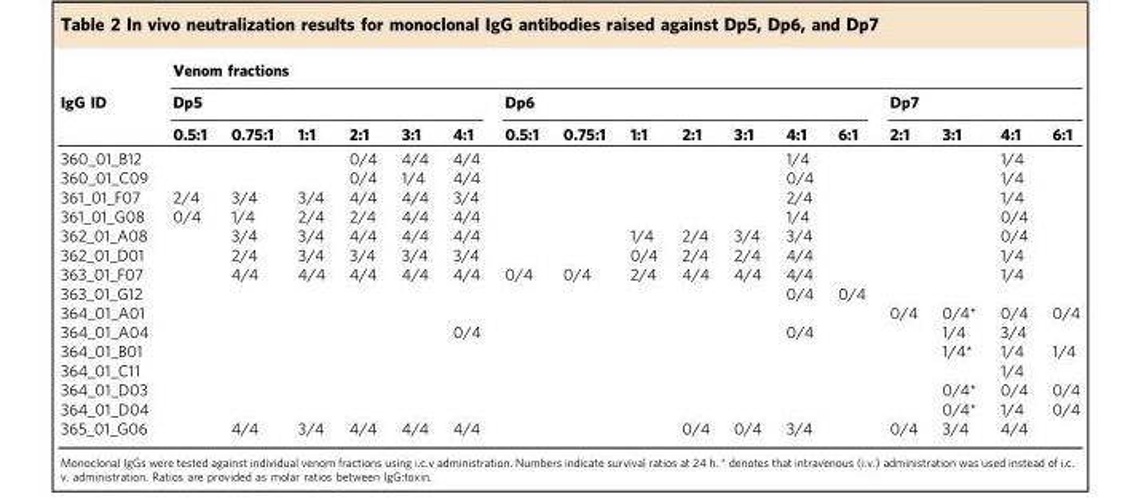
<table><thead><tr><td rowspan="3">IgG ID</td><td colspan="17">Venom fractions</td></tr><tr><td colspan="6">Dp5</td><td colspan="7">Dp6</td><td colspan="4">Dp7</td></tr><tr><td>0.5:1</td><td>0.75:1</td><td>1:1</td><td>2:1</td><td>3:1</td><td>4:1</td><td>0.5:1</td><td>0.75:1</td><td>1:1</td><td>2:1</td><td>3:1</td><td>4:1</td><td>6:1</td><td>2:1</td><td>3:1</td><td>4:1</td><td>6:1</td></tr></thead><tbody><tr><td>360_01_B12</td><td></td><td></td><td></td><td>0/4</td><td>4/4</td><td>4/4</td><td></td><td></td><td></td><td></td><td></td><td>1/4</td><td></td><td></td><td></td><td>1/4</td><td></td></tr><tr><td>360_01_C09</td><td></td><td></td><td></td><td>0/4</td><td>1/4</td><td>4/4</td><td></td><td></td><td></td><td></td><td></td><td>0/4</td><td></td><td></td><td></td><td>1/4</td><td></td></tr><tr><td>361_01_F07</td><td>2/4</td><td>3/4</td><td>3/4</td><td>4/4</td><td>4/4</td><td>3/4</td><td></td><td></td><td></td><td></td><td></td><td>2/4</td><td></td><td></td><td></td><td>1/4</td><td></td></tr><tr><td>361_01_G08</td><td>0/4</td><td>1/4</td><td>2/4</td><td>2/4</td><td>4/4</td><td>4/4</td><td></td><td></td><td></td><td></td><td></td><td>1/4</td><td></td><td></td><td></td><td>0/4</td><td></td></tr><tr><td>362_01_A08</td><td></td><td>3/4</td><td>3/4</td><td>4/4</td><td>4/4</td><td>4/4</td><td></td><td></td><td>1/4</td><td>2/4</td><td>3/4</td><td>3/4</td><td></td><td></td><td></td><td>0/4</td><td></td></tr><tr><td>362_01_D01</td><td></td><td>2/4</td><td>3/4</td><td>3/4</td><td>3/4</td><td>3/4</td><td></td><td></td><td>0/4</td><td>2/4</td><td>2/4</td><td>4/4</td><td></td><td></td><td></td><td>1/4</td><td></td></tr><tr><td>363_01_F07</td><td></td><td>4/4</td><td>4/4</td><td>4/4</td><td>4/4</td><td>4/4</td><td>0/4</td><td>0/4</td><td>2/4</td><td>4/4</td><td>4/4</td><td>4/4</td><td></td><td></td><td></td><td>1/4</td><td></td></tr><tr><td>363_01_G12</td><td></td><td></td><td></td><td></td><td></td><td></td><td></td><td></td><td></td><td></td><td></td><td>0/4</td><td>0/4</td><td></td><td></td><td></td><td></td></tr><tr><td>364_01_A01</td><td></td><td></td><td></td><td></td><td></td><td></td><td></td><td></td><td></td><td></td><td></td><td></td><td></td><td>0/4</td><td>0/4*</td><td>0/4</td><td>0/4</td></tr><tr><td>364_01_A04</td><td></td><td></td><td></td><td></td><td></td><td>0/4</td><td></td><td></td><td></td><td></td><td></td><td>0/4</td><td></td><td></td><td>1/4</td><td>3/4</td><td></td></tr><tr><td>364_01_B01</td><td></td><td></td><td></td><td></td><td></td><td></td><td></td><td></td><td></td><td></td><td></td><td></td><td></td><td></td><td>1/4*</td><td>1/4</td><td>1/4</td></tr><tr><td>364_01_C11</td><td></td><td></td><td></td><td></td><td></td><td></td><td></td><td></td><td></td><td></td><td></td><td></td><td></td><td></td><td></td><td>1/4</td><td></td></tr><tr><td>364_01_D03</td><td></td><td></td><td></td><td></td><td></td><td></td><td></td><td></td><td></td><td></td><td></td><td></td><td></td><td></td><td>0/4*</td><td>0/4</td><td>0/4</td></tr><tr><td>364_01_D04</td><td></td><td></td><td></td><td></td><td></td><td></td><td></td><td></td><td></td><td></td><td></td><td></td><td></td><td></td><td>0/4*</td><td>1/4</td><td>0/4</td></tr><tr><td>365_01_G06</td><td></td><td>4/4</td><td>3/4</td><td>4/4</td><td>4/4</td><td>4/4</td><td></td><td></td><td></td><td>0/4</td><td>0/4</td><td>3/4</td><td></td><td>0/4</td><td>3/4</td><td>4/4</td><td></td></tr></tbody></table>